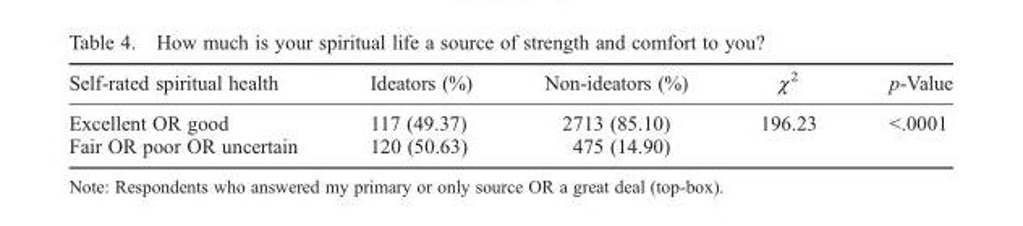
<table><thead><tr><td>Self-rated spiritual health</td><td>Ideators (%)</td><td>Non-ideators (%)</td><td>χ<sup>2</sup></td><td>p-Value</td></tr></thead><tbody><tr><td>Excellent OR good</td><td>117 (49.37)</td><td>2713 (85.10)</td><td rowspan="2">196.23</td><td rowspan="2">&lt;.0001</td></tr><tr><td>Fair OR poor OR uncertain</td><td>120 (50.63)</td><td>475 (14.90)</td></tr></tbody></table>